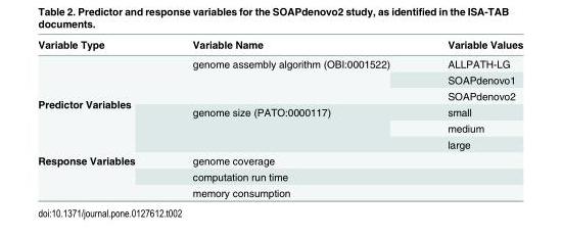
<table><thead><tr><td>Variable Type</td><td>Variable Name</td><td>Variable Values</td></tr></thead><tbody><tr><td rowspan="6">Predictor Variables</td><td rowspan="3">genome assembly algorithm (OBI:0001522)</td><td>ALLPATH-LG</td></tr><tr><td>SOAPdenovo1</td></tr><tr><td>SOAPdenovo2</td></tr><tr><td rowspan="3">genome size (PATO:0000117)</td><td>small</td></tr><tr><td>medium</td></tr><tr><td>large</td></tr><tr><td rowspan="3">Response Variables</td><td>genome coverage</td><td></td></tr><tr><td>computation run time</td><td></td></tr><tr><td>memory consumption</td><td></td></tr></tbody></table>